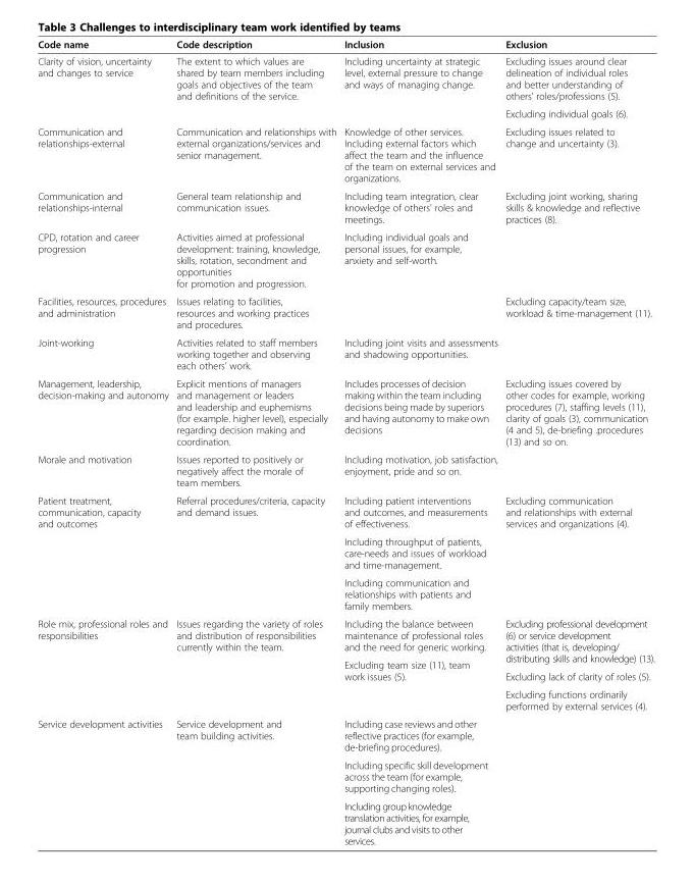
<table><thead><tr><td>Code name</td><td>Code description</td><td>Inclusion</td><td>Exclusion</td></tr></thead><tbody><tr><td rowspan="2">Clarity of vision, uncertainty and changes to service</td><td rowspan="2">The extent to which values are shared by team members including goals and objectives of the team and definitions of the service.</td><td rowspan="2">Including uncertainty at strategic level, external pressure to change and ways of managing change.</td><td>Excluding issues around clear delineation of individual roles and better understanding of others&#x27; roles/professions (5).</td></tr><tr><td>Excluding individual goals (6).</td></tr><tr><td>Communication and relationships-external</td><td>Communication and relationships with external organizations/services and senior management.</td><td>Knowledge of other services. Including external factors which affect the team and the influence of the team on external services and organizations.</td><td>Excluding issues related to change and uncertainty (3).</td></tr><tr><td>Communication and relationships-internal</td><td>General team relationship and communication issues.</td><td>Including team integration, clear knowledge of others&#x27; roles and meetings.</td><td>Excluding joint working, sharing skills &amp; knowledge and reflective practices (8).</td></tr><tr><td>CPD, rotation and career progression</td><td>Activities aimed at professional development: training, knowledge, skills, rotation, secondment and opportunities for promotion and progression.</td><td>Including individual goals and personal issues, for example, anxiety and self-worth.</td><td></td></tr><tr><td>Facilities, resources, procedures and administration</td><td>Issues relating to facilities, resources and working practices and procedures.</td><td></td><td>Excluding capacity/team size, workload &amp; time-management (11).</td></tr><tr><td>Joint-working</td><td>Activities related to staff members working together and observing each others’ work.</td><td>Including joint visits and assessments and shadowing opportunities.</td><td></td></tr><tr><td>Management, leadership, decision-making and autonomy</td><td>Explicit mentions of managers and management or leaders and leadership and euphemisms (for example. higher level), especially regarding decision making and coordination.</td><td>Includes processes of decision making within the team including decisions being made by superiors and having autonomy to make own decisions</td><td>Excluding issues covered by other codes for example, working procedures (7), staffing levels (11), clarity of goals (3), communication (4 and 5), de-briefing .procedures (13) and so on.</td></tr><tr><td>Morale and motivation</td><td>Issues reported to positively or negatively affect the morale of team members.</td><td>Including motivation, job satisfaction, enjoyment, pride and so on.</td><td></td></tr><tr><td rowspan="3">Patient treatment, communication, capacity and outcomes</td><td>Referral procedures/criteria, capacity and demand issues.</td><td>Including patient interventions and outcomes, and measurements of effectiveness.</td><td>Excluding communication and relationships with external services and organizations (4).</td></tr><tr><td rowspan="2"></td><td>Including throughput of patients, care-needs and issues of workload and time-management.</td><td rowspan="2"></td></tr><tr><td>Including communication and relationships with patients and family members.</td></tr><tr><td rowspan="4">Role mix, professional roles and responsibilities</td><td rowspan="4">Issues regarding the variety of roles and distribution of responsibilities currently within the team.</td><td>Including the balance between maintenance of professional roles and the need for generic working.</td><td rowspan="2">Excluding professional development (6) or service development activities (that is, developing/ distributing skills and knowledge) (13).</td></tr><tr><td rowspan="3">Excluding team size (11), team work issues (5).</td></tr><tr><td>Excluding lack of clarity of roles (5).</td></tr><tr><td>Excluding functions ordinarily performed by external services (4).</td></tr><tr><td rowspan="3">Service development activities</td><td rowspan="2">Service development and team building activities.</td><td>Including case reviews and other reflective practices (for example, de-briefing procedures).</td><td rowspan="2"></td></tr><tr><td>Including specific skill development across the team (for example, supporting changing roles).</td></tr><tr><td></td><td>Including group knowledge translation activities, for example, journal clubs and visits to other services.</td><td></td></tr></tbody></table>